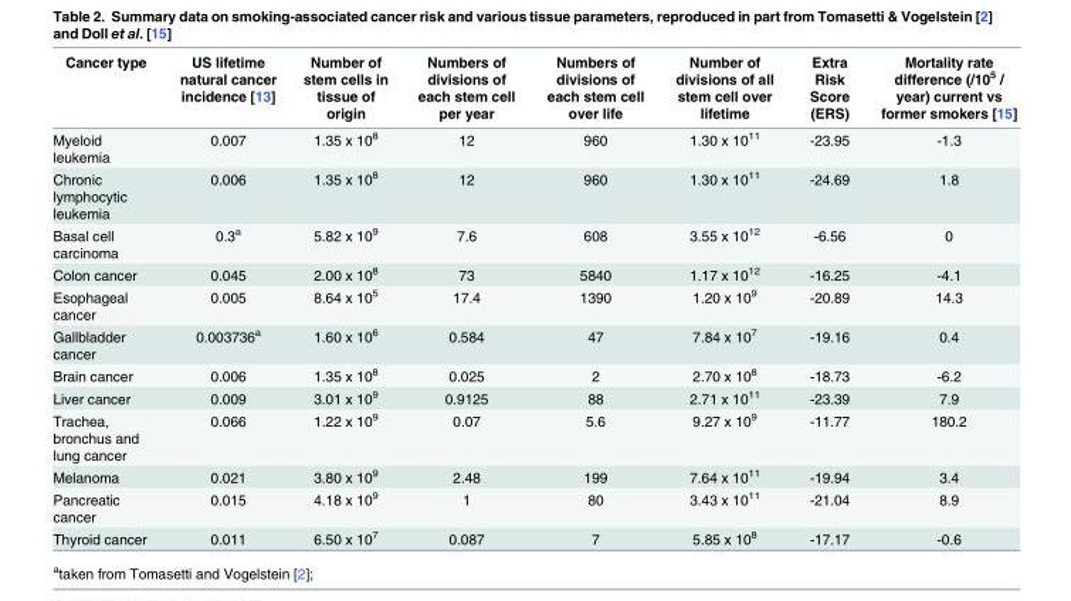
<table><thead><tr><td>Cancer type</td><td>US lifetime natural cancer incidence [13]</td><td>Number of stem cells in tissue of origin</td><td>Numbers of divisions of each stem cell per year</td><td>Numbers of divisions of each stem cell over life</td><td>Number of divisions of all stem cell over lifetime</td><td>Extra Risk Score (ERS)</td><td>Mortality rate difference (/10<sup>5</sup> / year) current vs former smokers [15]</td></tr></thead><tbody><tr><td>Myeloid leukemia</td><td>0.007</td><td>1.35 x 10<sup>8</sup></td><td>12</td><td>960</td><td>1.30 x 10<sup>11</sup></td><td>-23.95</td><td>-1.3</td></tr><tr><td>Chronic lymphocytic leukemia</td><td>0.006</td><td>1.35 x 10<sup>8</sup></td><td>12</td><td>960</td><td>1.30 x 10<sup>11</sup></td><td>-24.69</td><td>1.8</td></tr><tr><td>Basal cell carcinoma</td><td>0.3<sup>a</sup></td><td>5.82 x 10<sup>9</sup></td><td>7.6</td><td>608</td><td>3.55 x 10<sup>12</sup></td><td>-6.56</td><td>0</td></tr><tr><td>Colon cancer</td><td>0.045</td><td>2.00 x 10<sup>8</sup></td><td>73</td><td>5840</td><td>1.17 x 10<sup>12</sup></td><td>-16.25</td><td>-4.1</td></tr><tr><td>Esophageal cancer</td><td>0.005</td><td>8.64 x 10<sup>5</sup></td><td>17.4</td><td>1390</td><td>1.20 x 10<sup>9</sup></td><td>-20.89</td><td>14.3</td></tr><tr><td>Gallbladder cancer</td><td>0.003736<sup>a</sup></td><td>1.60 x 10<sup>6</sup></td><td>0.584</td><td>47</td><td>7.84 x 10<sup>7</sup></td><td>-19.16</td><td>0.4</td></tr><tr><td>Brain cancer</td><td>0.006</td><td>1.35 x 10<sup>8</sup></td><td>0.025</td><td>2</td><td>2.70 x 10<sup>8</sup></td><td>-18.73</td><td>-6.2</td></tr><tr><td>Liver cancer</td><td>0.009</td><td>3.01 x 10<sup>9</sup></td><td>0.9125</td><td>88</td><td>2.71 x 10<sup>11</sup></td><td>-23.39</td><td>7.9</td></tr><tr><td>Trachea, bronchus and lung cancer</td><td>0.066</td><td>1.22 x 10<sup>9</sup></td><td>0.07</td><td>5.6</td><td>9.27 x 10<sup>9</sup></td><td>-11.77</td><td>180.2</td></tr><tr><td>Melanoma</td><td>0.021</td><td>3.80 x 10<sup>9</sup></td><td>2.48</td><td>199</td><td>7.64 x 10<sup>11</sup></td><td>-19.94</td><td>3.4</td></tr><tr><td>Pancreatic cancer</td><td>0.015</td><td>4.18 x 10<sup>9</sup></td><td>1</td><td>80</td><td>3.43 x 10<sup>11</sup></td><td>-21.04</td><td>8.9</td></tr><tr><td>Thyroid cancer</td><td>0.011</td><td>6.50 x 10<sup>7</sup></td><td>0.087</td><td>7</td><td>5.85 x 10<sup>8</sup></td><td>-17.17</td><td>-0.6</td></tr></tbody></table>